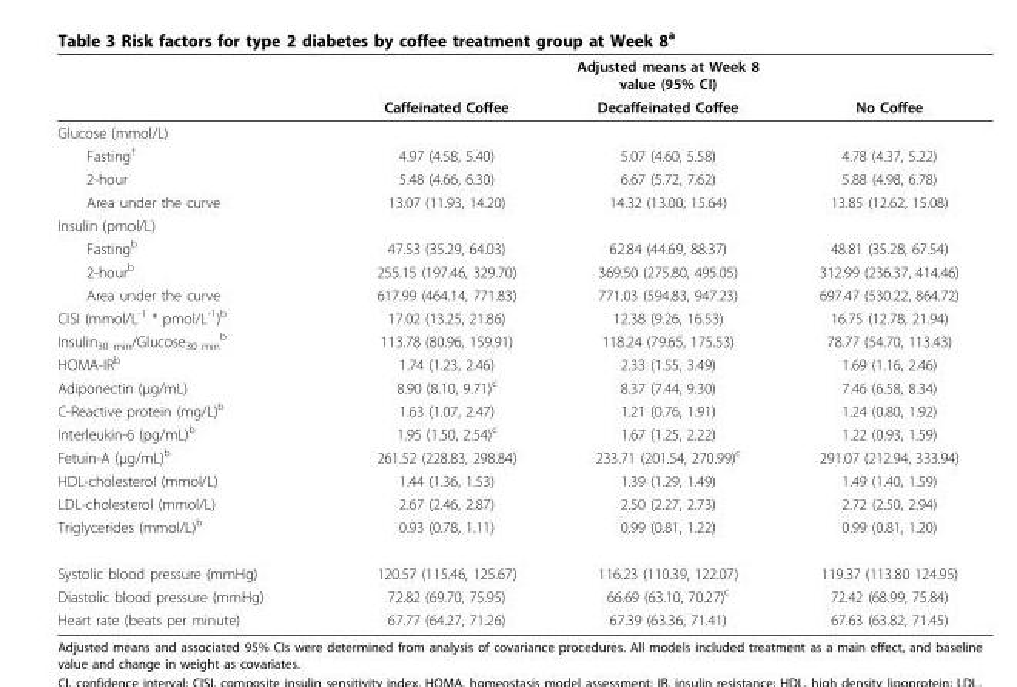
<table><thead><tr><td rowspan="2"></td><td colspan="3">Adjusted means at Week 8 value (95% CI)</td></tr><tr><td>Caffeinated Coffee</td><td>Decaffeinated Coffee</td><td>No Coffee</td></tr></thead><tbody><tr><td colspan="4">Glucose (mmol/L)</td></tr><tr><td>Fasting<sup>†</sup></td><td>4.97 (4.58, 5.40)</td><td>5.07 (4.60, 5.58)</td><td>4.78 (4.37, 5.22)</td></tr><tr><td>2-hour</td><td>5.48 (4.66, 6.30)</td><td>6.67 (5.72, 7.62)</td><td>5.88 (4.98, 6.78)</td></tr><tr><td>Area under the curve</td><td>13.07 (11.93, 14.20)</td><td>14.32 (13.00, 15.64)</td><td>13.85 (12.62, 15.08)</td></tr><tr><td colspan="4">Insulin (pmol/L)</td></tr><tr><td>Fasting<sup>b</sup></td><td>47.53 (35.29, 64.03)</td><td>62.84 (44.69, 88.37)</td><td>48.81 (35.28, 67.54)</td></tr><tr><td>2-hour<sup>b</sup></td><td>255.15 (197.46, 329.70)</td><td>369.50 (275.80, 495.05)</td><td>312.99 (236.37, 414.46)</td></tr><tr><td>Area under the curve</td><td>617.99 (464.14, 771.83)</td><td>771.03 (594.83, 947.23)</td><td>697.47 (530.22, 864.72)</td></tr><tr><td>CISI (mmol/L<sup>-1</sup> * pmol/L<sup>-1</sup>)<sup>b</sup></td><td>17.02 (13.25, 21.86)</td><td>12.38 (9.26, 16.53)</td><td>16.75 (12.78, 21.94)</td></tr><tr><td>Insulin<sub>30 min</sub>/Glucose<sub>30 min</sub> <sup>b</sup></td><td>113.78 (80.96, 159.91)</td><td>118.24 (79.65, 175.53)</td><td>78.77 (54.70, 113.43)</td></tr><tr><td>HOMA-IR<sup>b</sup></td><td>1.74 (1.23, 2.46)</td><td>2.33 (1.55, 3.49)</td><td>1.69 (1.16, 2.46)</td></tr><tr><td>Adiponectin (μg/mL)</td><td>8.90 (8.10, 9.71)<sup>c</sup></td><td>8.37 (7.44, 9.30)</td><td>7.46 (6.58, 8.34)</td></tr><tr><td>C-Reactive protein (mg/L)<sup>b</sup></td><td>1.63 (1.07, 2.47)</td><td>1.21 (0.76, 1.91)</td><td>1.24 (0.80, 1.92)</td></tr><tr><td>Interleukin-6 (pg/mL)<sup>b</sup></td><td>1.95 (1.50, 2.54)<sup>c</sup></td><td>1.67 (1.25, 2.22)</td><td>1.22 (0.93, 1.59)</td></tr><tr><td>Fetuin-A (μg/mL)<sup>b</sup></td><td>261.52 (228.83, 298.84)</td><td>233.71 (201.54, 270.99)<sup>c</sup></td><td>291.07 (212.94, 333.94)</td></tr><tr><td>HDL-cholesterol (mmol/L)</td><td>1.44 (1.36, 1.53)</td><td>1.39 (1.29, 1.49)</td><td>1.49 (1.40, 1.59)</td></tr><tr><td>LDL-cholesterol (mmol/L)</td><td>2.67 (2.46, 2.87)</td><td>2.50 (2.27, 2.73)</td><td>2.72 (2.50, 2.94)</td></tr><tr><td>Triglycerides (mmol/L)<sup>b</sup></td><td>0.93 (0.78, 1.11)</td><td>0.99 (0.81, 1.22)</td><td>0.99 (0.81, 1.20)</td></tr><tr><td>Systolic blood pressure (mmHg)</td><td>120.57 (115.46, 125.67)</td><td>116.23 (110.39, 122.07)</td><td>119.37 (113.80 124.95)</td></tr><tr><td>Diastolic blood pressure (mmHg)</td><td>72.82 (69.70, 75.95)</td><td>66.69 (63.10, 70.27)<sup>c</sup></td><td>72.42 (68.99, 75.84)</td></tr><tr><td>Heart rate (beats per minute)</td><td>67.77 (64.27, 71.26)</td><td>67.39 (63.36, 71.41)</td><td>67.63 (63.82, 71.45)</td></tr></tbody></table>